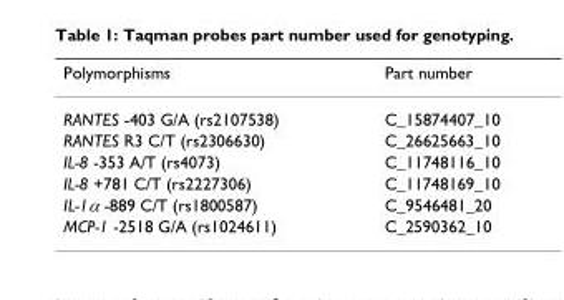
<table><thead><tr><td>Polymorphisms</td><td>Part number</td></tr></thead><tbody><tr><td>RANTES -403 G/A (rs2107538)</td><td>C_15874407_10</td></tr><tr><td>RANTES R3 C/T (rs2306630)</td><td>C_26625663_10</td></tr><tr><td>IL-8 -353 A/T (rs4073)</td><td>C_11748116_10</td></tr><tr><td>IL-8 +781 C/T (rs2227306)</td><td>C_11748169_10</td></tr><tr><td>IL-1α -889 C/T (rs1800587)</td><td>C_9546481_20</td></tr><tr><td>MCP-1 -2518 G/A (rs1024611)</td><td>C_2590362_10</td></tr></tbody></table>